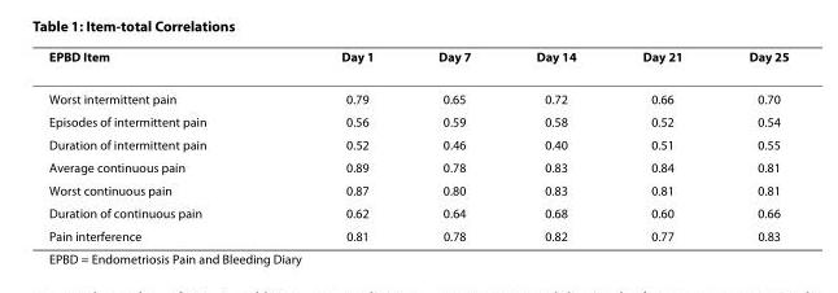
<table><thead><tr><td>EPBD Item</td><td>Day 1</td><td>Day 7</td><td>Day 14</td><td>Day 21</td><td>Day 25</td></tr></thead><tbody><tr><td>Worst intermittent pain</td><td>0.79</td><td>0.65</td><td>0.72</td><td>0.66</td><td>0.70</td></tr><tr><td>Episodes of intermittent pain</td><td>0.56</td><td>0.59</td><td>0.58</td><td>0.52</td><td>0.54</td></tr><tr><td>Duration of intermittent pain</td><td>0.52</td><td>0.46</td><td>0.40</td><td>0.51</td><td>0.55</td></tr><tr><td>Average continuous pain</td><td>0.89</td><td>0.78</td><td>0.83</td><td>0.84</td><td>0.81</td></tr><tr><td>Worst continuous pain</td><td>0.87</td><td>0.80</td><td>0.83</td><td>0.81</td><td>0.81</td></tr><tr><td>Duration of continuous pain</td><td>0.62</td><td>0.64</td><td>0.68</td><td>0.60</td><td>0.66</td></tr><tr><td>Pain interference</td><td>0.81</td><td>0.78</td><td>0.82</td><td>0.77</td><td>0.83</td></tr></tbody></table>